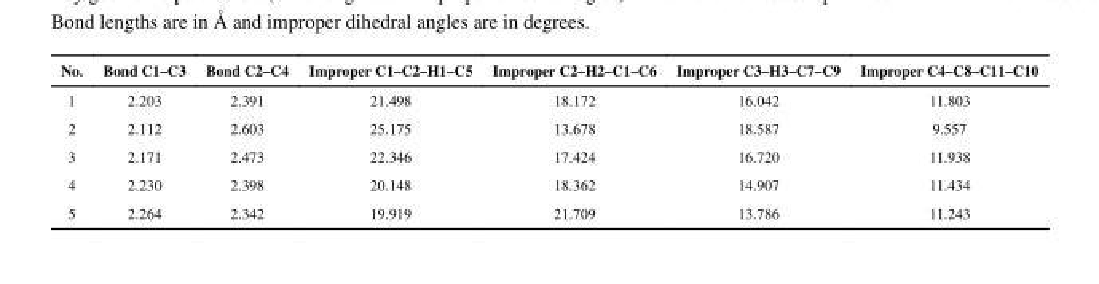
<table><thead><tr><td>No.</td><td>Bond C1–C3</td><td>Bond C2–C4</td><td>Improper C1–C2–H1–C5</td><td>Improper C2–H2–C1–C6</td><td>Improper C3–H3–C7–C9</td><td>Improper C4–C8–C11–C10</td></tr></thead><tbody><tr><td>1</td><td>2.203</td><td>2.391</td><td>21.498</td><td>18.172</td><td>16.042</td><td>11.803</td></tr><tr><td>2</td><td>2.112</td><td>2.603</td><td>25.175</td><td>13.678</td><td>18.587</td><td>9.557</td></tr><tr><td>3</td><td>2.171</td><td>2.473</td><td>22.346</td><td>17.424</td><td>16.720</td><td>11.938</td></tr><tr><td>4</td><td>2.230</td><td>2.398</td><td>20.148</td><td>18.362</td><td>14.907</td><td>11.434</td></tr><tr><td>5</td><td>2.264</td><td>2.342</td><td>19.919</td><td>21.709</td><td>13.786</td><td>11.243</td></tr></tbody></table>